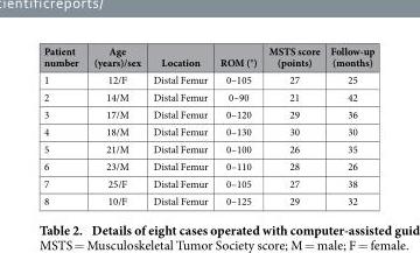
<table><thead><tr><td>Patient number</td><td>Age (years)/sex</td><td>Location</td><td>ROM (°)</td><td>MSTS score (points)</td><td>Follow-up (months)</td></tr></thead><tbody><tr><td>1</td><td>12/F</td><td>Distal Femur</td><td>0–105</td><td>27</td><td>25</td></tr><tr><td>2</td><td>14/M</td><td>Distal Femur</td><td>0–90</td><td>21</td><td>42</td></tr><tr><td>3</td><td>17/M</td><td>Distal Femur</td><td>0–120</td><td>29</td><td>36</td></tr><tr><td>4</td><td>18/M</td><td>Distal Femur</td><td>0–130</td><td>30</td><td>30</td></tr><tr><td>5</td><td>21/M</td><td>Distal Femur</td><td>0–100</td><td>26</td><td>35</td></tr><tr><td>6</td><td>23/M</td><td>Distal Femur</td><td>0–110</td><td>28</td><td>26</td></tr><tr><td>7</td><td>25/F</td><td>Distal Femur</td><td>0–105</td><td>27</td><td>38</td></tr><tr><td>8</td><td>10/F</td><td>Distal Femur</td><td>0–125</td><td>29</td><td>32</td></tr></tbody></table>